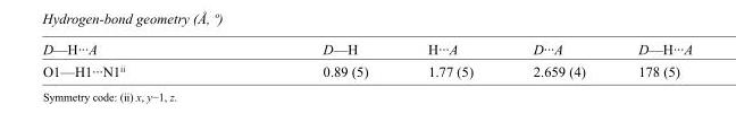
<table><tbody><tr><td>D—H···A</td><td>D—H</td><td>H···A</td><td>D···A</td><td>D—H···A</td></tr><tr><td>O1—H1···N1<sup>ii</sup></td><td>0.89 (5)</td><td>1.77 (5)</td><td>2.659 (4)</td><td>178 (5)</td></tr></tbody></table>